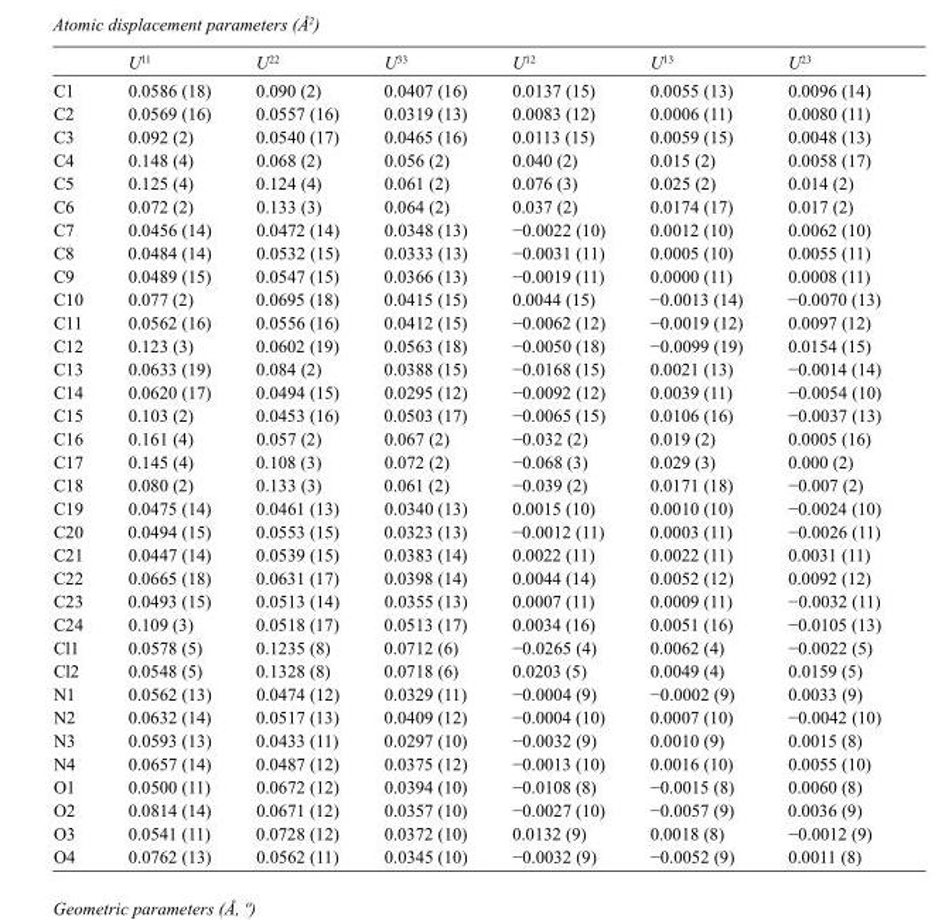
<table><thead><tr><td></td><td>U<sup>11</sup></td><td>U<sup>22</sup></td><td>U<sup>33</sup></td><td>U<sup>12</sup></td><td>U<sup>13</sup></td><td>U<sup>23</sup></td></tr></thead><tbody><tr><td>C1</td><td>0.0586 (18)</td><td>0.090 (2)</td><td>0.0407 (16)</td><td>0.0137 (15)</td><td>0.0055 (13)</td><td>0.0096 (14)</td></tr><tr><td>C2</td><td>0.0569 (16)</td><td>0.0557 (16)</td><td>0.0319 (13)</td><td>0.0083 (12)</td><td>0.0006 (11)</td><td>0.0080 (11)</td></tr><tr><td>C3</td><td>0.092 (2)</td><td>0.0540 (17)</td><td>0.0465 (16)</td><td>0.0113 (15)</td><td>0.0059 (15)</td><td>0.0048 (13)</td></tr><tr><td>C4</td><td>0.148 (4)</td><td>0.068 (2)</td><td>0.056 (2)</td><td>0.040 (2)</td><td>0.015 (2)</td><td>0.0058 (17)</td></tr><tr><td>C5</td><td>0.125 (4)</td><td>0.124 (4)</td><td>0.061 (2)</td><td>0.076 (3)</td><td>0.025 (2)</td><td>0.014 (2)</td></tr><tr><td>C6</td><td>0.072 (2)</td><td>0.133 (3)</td><td>0.064 (2)</td><td>0.037 (2)</td><td>0.0174 (17)</td><td>0.017 (2)</td></tr><tr><td>C7</td><td>0.0456 (14)</td><td>0.0472 (14)</td><td>0.0348 (13)</td><td>−0.0022 (10)</td><td>0.0012 (10)</td><td>0.0062 (10)</td></tr><tr><td>C8</td><td>0.0484 (14)</td><td>0.0532 (15)</td><td>0.0333 (13)</td><td>−0.0031 (11)</td><td>0.0005 (10)</td><td>0.0055 (11)</td></tr><tr><td>C9</td><td>0.0489 (15)</td><td>0.0547 (15)</td><td>0.0366 (13)</td><td>−0.0019 (11)</td><td>0.0000 (11)</td><td>0.0008 (11)</td></tr><tr><td>C10</td><td>0.077 (2)</td><td>0.0695 (18)</td><td>0.0415 (15)</td><td>0.0044 (15)</td><td>−0.0013 (14)</td><td>−0.0070 (13)</td></tr><tr><td>C11</td><td>0.0562 (16)</td><td>0.0556 (16)</td><td>0.0412 (15)</td><td>−0.0062 (12)</td><td>−0.0019 (12)</td><td>0.0097 (12)</td></tr><tr><td>C12</td><td>0.123 (3)</td><td>0.0602 (19)</td><td>0.0563 (18)</td><td>−0.0050 (18)</td><td>−0.0099 (19)</td><td>0.0154 (15)</td></tr><tr><td>C13</td><td>0.0633 (19)</td><td>0.084 (2)</td><td>0.0388 (15)</td><td>−0.0168 (15)</td><td>0.0021 (13)</td><td>−0.0014 (14)</td></tr><tr><td>C14</td><td>0.0620 (17)</td><td>0.0494 (15)</td><td>0.0295 (12)</td><td>−0.0092 (12)</td><td>0.0039 (11)</td><td>−0.0054 (10)</td></tr><tr><td>C15</td><td>0.103 (2)</td><td>0.0453 (16)</td><td>0.0503 (17)</td><td>−0.0065 (15)</td><td>0.0106 (16)</td><td>−0.0037 (13)</td></tr><tr><td>C16</td><td>0.161 (4)</td><td>0.057 (2)</td><td>0.067 (2)</td><td>−0.032 (2)</td><td>0.019 (2)</td><td>0.0005 (16)</td></tr><tr><td>C17</td><td>0.145 (4)</td><td>0.108 (3)</td><td>0.072 (2)</td><td>−0.068 (3)</td><td>0.029 (3)</td><td>0.000 (2)</td></tr><tr><td>C18</td><td>0.080 (2)</td><td>0.133 (3)</td><td>0.061 (2)</td><td>−0.039 (2)</td><td>0.0171 (18)</td><td>−0.007 (2)</td></tr><tr><td>C19</td><td>0.0475 (14)</td><td>0.0461 (13)</td><td>0.0340 (13)</td><td>0.0015 (10)</td><td>0.0010 (10)</td><td>−0.0024 (10)</td></tr><tr><td>C20</td><td>0.0494 (15)</td><td>0.0553 (15)</td><td>0.0323 (13)</td><td>−0.0012 (11)</td><td>0.0003 (11)</td><td>−0.0026 (11)</td></tr><tr><td>C21</td><td>0.0447 (14)</td><td>0.0539 (15)</td><td>0.0383 (14)</td><td>0.0022 (11)</td><td>0.0022 (11)</td><td>0.0031 (11)</td></tr><tr><td>C22</td><td>0.0665 (18)</td><td>0.0631 (17)</td><td>0.0398 (14)</td><td>0.0044 (14)</td><td>0.0052 (12)</td><td>0.0092 (12)</td></tr><tr><td>C23</td><td>0.0493 (15)</td><td>0.0513 (14)</td><td>0.0355 (13)</td><td>0.0007 (11)</td><td>0.0009 (11)</td><td>−0.0032 (11)</td></tr><tr><td>C24</td><td>0.109 (3)</td><td>0.0518 (17)</td><td>0.0513 (17)</td><td>0.0034 (16)</td><td>0.0051 (16)</td><td>−0.0105 (13)</td></tr><tr><td>Cl1</td><td>0.0578 (5)</td><td>0.1235 (8)</td><td>0.0712 (6)</td><td>−0.0265 (4)</td><td>0.0062 (4)</td><td>−0.0022 (5)</td></tr><tr><td>Cl2</td><td>0.0548 (5)</td><td>0.1328 (8)</td><td>0.0718 (6)</td><td>0.0203 (5)</td><td>0.0049 (4)</td><td>0.0159 (5)</td></tr><tr><td>N1</td><td>0.0562 (13)</td><td>0.0474 (12)</td><td>0.0329 (11)</td><td>−0.0004 (9)</td><td>−0.0002 (9)</td><td>0.0033 (9)</td></tr><tr><td>N2</td><td>0.0632 (14)</td><td>0.0517 (13)</td><td>0.0409 (12)</td><td>−0.0004 (10)</td><td>0.0007 (10)</td><td>−0.0042 (10)</td></tr><tr><td>N3</td><td>0.0593 (13)</td><td>0.0433 (11)</td><td>0.0297 (10)</td><td>−0.0032 (9)</td><td>0.0010 (9)</td><td>0.0015 (8)</td></tr><tr><td>N4</td><td>0.0657 (14)</td><td>0.0487 (12)</td><td>0.0375 (12)</td><td>−0.0013 (10)</td><td>0.0016 (10)</td><td>0.0055 (10)</td></tr><tr><td>O1</td><td>0.0500 (11)</td><td>0.0672 (12)</td><td>0.0394 (10)</td><td>−0.0108 (8)</td><td>−0.0015 (8)</td><td>0.0060 (8)</td></tr><tr><td>O2</td><td>0.0814 (14)</td><td>0.0671 (12)</td><td>0.0357 (10)</td><td>−0.0027 (10)</td><td>−0.0057 (9)</td><td>0.0036 (9)</td></tr><tr><td>O3</td><td>0.0541 (11)</td><td>0.0728 (12)</td><td>0.0372 (10)</td><td>0.0132 (9)</td><td>0.0018 (8)</td><td>−0.0012 (9)</td></tr><tr><td>O4</td><td>0.0762 (13)</td><td>0.0562 (11)</td><td>0.0345 (10)</td><td>−0.0032 (9)</td><td>−0.0052 (9)</td><td>0.0011 (8)</td></tr></tbody></table>